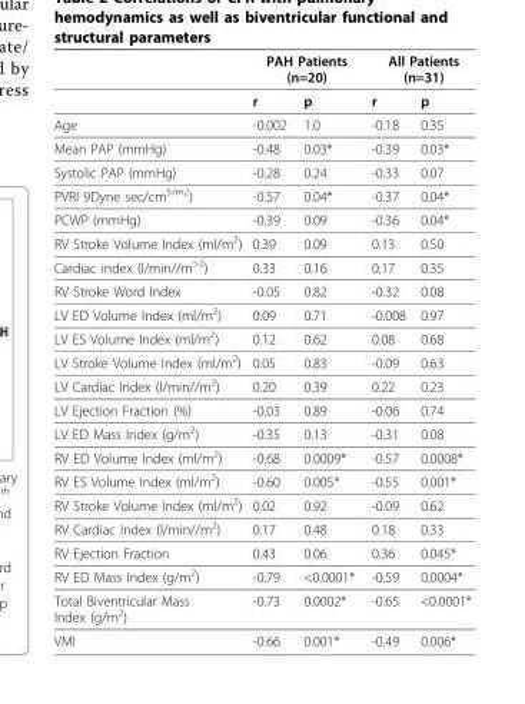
<table><thead><tr><td rowspan="2"></td><td colspan="2">PAH Patients (n=20)</td><td colspan="2">All Patients (n=31)</td></tr><tr><td>r</td><td>p</td><td>r</td><td>p</td></tr></thead><tbody><tr><td>Age</td><td>-0.002</td><td>1.0</td><td>-0.18</td><td>0.35</td></tr><tr><td>Mean PAP (mmHg)</td><td>-0.48</td><td>0.03*</td><td>-0.39</td><td>0.03*</td></tr><tr><td>Systolic PAP (mmHg)</td><td>-0.28</td><td>0.24</td><td>-0.33</td><td>0.07</td></tr><tr><td>PVRI 9Dyne sec/cm<sup>5/m2</sup>)</td><td>-0.57</td><td>0.04*</td><td>-0.37</td><td>0.04*</td></tr><tr><td>PCWP (mmHg)</td><td>-0.39</td><td>0.09</td><td>-0.36</td><td>0.04*</td></tr><tr><td>RV Stroke Volume Index (ml/m<sup>2</sup>)</td><td>0.39</td><td>0.09</td><td>0.13</td><td>0.50</td></tr><tr><td>Cardiac index (l/min//m<sup>&gt;2</sup>)</td><td>0.33</td><td>0.16</td><td>0.17</td><td>0.35</td></tr><tr><td>RV Stroke Word Index</td><td>-0.05</td><td>0.82</td><td>-0.32</td><td>0.08</td></tr><tr><td>LV ED Volume Index (ml/m<sup>2</sup>)</td><td>0.09</td><td>0.71</td><td>-0.008</td><td>0.97</td></tr><tr><td>LV ES Volume Index (ml/m<sup>2</sup>)</td><td>0.12</td><td>0.62</td><td>0.08</td><td>0.68</td></tr><tr><td>LV Stroke Volume Index (ml/m<sup>2</sup>)</td><td>0.05</td><td>0.83</td><td>-0.09</td><td>0.63</td></tr><tr><td>LV Cardiac Index (l/min//m<sup>2</sup>)</td><td>0.20</td><td>0.39</td><td>0.22</td><td>0.23</td></tr><tr><td>LV Ejection Fraction (%)</td><td>-0.03</td><td>0.89</td><td>-0.06</td><td>0.74</td></tr><tr><td>LV ED Mass Index (g/m<sup>2</sup>)</td><td>-0.35</td><td>0.13</td><td>-0.31</td><td>0.08</td></tr><tr><td>RV ED Volume Index (ml/m<sup>2</sup>)</td><td>-0.68</td><td>0.0009*</td><td>-0.57</td><td>0.0008*</td></tr><tr><td>RV ES Volume Index (ml/m<sup>2</sup>)</td><td>-0.60</td><td>0.005*</td><td>-0.55</td><td>0.001*</td></tr><tr><td>RV Stroke Volume Index (ml/m<sup>2</sup>)</td><td>0.02</td><td>0.92</td><td>-0.09</td><td>0.62</td></tr><tr><td>RV Cardiac Index (l/min//m<sup>2</sup>)</td><td>0.17</td><td>0.48</td><td>0.18</td><td>0.33</td></tr><tr><td>RV Ejection Fraction</td><td>0.43</td><td>0.06</td><td>0.36</td><td>0.045*</td></tr><tr><td>RV ED Mass Index (g/m<sup>2</sup>)</td><td>-0.79</td><td>&lt;0.0001*</td><td>-0.59</td><td>0.0004*</td></tr><tr><td>Total Biventricular Mass Index (g/m<sup>2</sup>)</td><td>-0.73</td><td>0.0002*</td><td>-0.65</td><td>&lt;0.0001*</td></tr><tr><td>VMI</td><td>-0.66</td><td>0.001*</td><td>-0.49</td><td>0.006*</td></tr></tbody></table>